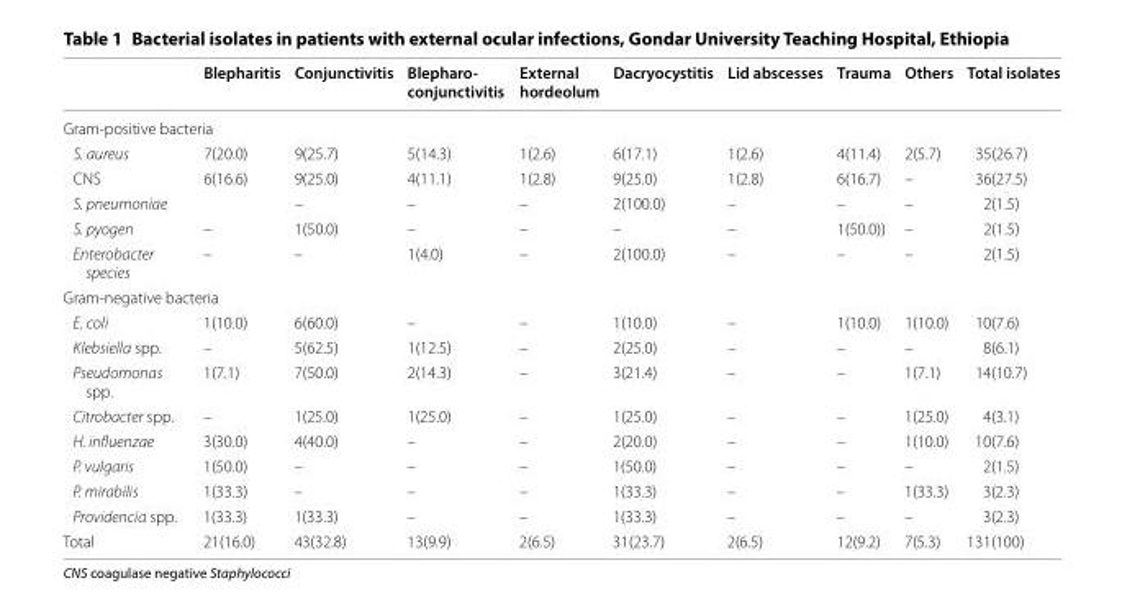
<table><thead><tr><td></td><td>Blepharitis</td><td>Conjunctivitis</td><td>Blepharo- conjunctivitis</td><td>External hordeolum</td><td>Dacryocystitis</td><td>Lid abscesses</td><td>Trauma</td><td>Others</td><td>Total isolates</td></tr></thead><tbody><tr><td colspan="10">Gram-positive bacteria</td></tr><tr><td>S. aureus</td><td>7(20.0)</td><td>9(25.7)</td><td>5(14.3)</td><td>1(2.6)</td><td>6(17.1)</td><td>1(2.6)</td><td>4(11.4)</td><td>2(5.7)</td><td>35(26.7)</td></tr><tr><td>CNS</td><td>6(16.6)</td><td>9(25.0)</td><td>4(11.1)</td><td>1(2.8)</td><td>9(25.0)</td><td>1(2.8)</td><td>6(16.7)</td><td>–</td><td>36(27.5)</td></tr><tr><td>S. pneumoniae</td><td></td><td>–</td><td>–</td><td>–</td><td>2(100.0)</td><td>–</td><td>–</td><td>–</td><td>2(1.5)</td></tr><tr><td>S. pyogen</td><td>–</td><td>1(50.0)</td><td>–</td><td>–</td><td>–</td><td>–</td><td>1(50.0))</td><td>–</td><td>2(1.5)</td></tr><tr><td>Enterobacter species</td><td>–</td><td>–</td><td>1(4.0)</td><td>–</td><td>2(100.0)</td><td>–</td><td>–</td><td>–</td><td>2(1.5)</td></tr><tr><td colspan="10">Gram-negative bacteria</td></tr><tr><td>E. coli</td><td>1(10.0)</td><td>6(60.0)</td><td>–</td><td>–</td><td>1(10.0)</td><td>–</td><td>1(10.0)</td><td>1(10.0)</td><td>10(7.6)</td></tr><tr><td>Klebsiella spp.</td><td>–</td><td>5(62.5)</td><td>1(12.5)</td><td>–</td><td>2(25.0)</td><td>–</td><td>–</td><td>–</td><td>8(6.1)</td></tr><tr><td>Pseudomonas spp.</td><td>1(7.1)</td><td>7(50.0)</td><td>2(14.3)</td><td>–</td><td>3(21.4)</td><td>–</td><td>–</td><td>1(7.1)</td><td>14(10.7)</td></tr><tr><td>Citrobacter spp.</td><td>–</td><td>1(25.0)</td><td>1(25.0)</td><td>–</td><td>1(25.0)</td><td>–</td><td>–</td><td>1(25.0)</td><td>4(3.1)</td></tr><tr><td>H. influenzae</td><td>3(30.0)</td><td>4(40.0)</td><td>–</td><td>–</td><td>2(20.0)</td><td>–</td><td>–</td><td>1(10.0)</td><td>10(7.6)</td></tr><tr><td>P. vulgaris</td><td>1(50.0)</td><td>–</td><td>–</td><td>–</td><td>1(50.0)</td><td>–</td><td>–</td><td>–</td><td>2(1.5)</td></tr><tr><td>P. mirabilis</td><td>1(33.3)</td><td>–</td><td>–</td><td>–</td><td>1(33.3)</td><td>–</td><td>–</td><td>1(33.3)</td><td>3(2.3)</td></tr><tr><td>Providencia spp.</td><td>1(33.3)</td><td>1(33.3)</td><td>–</td><td>–</td><td>1(33.3)</td><td>–</td><td>–</td><td>–</td><td>3(2.3)</td></tr><tr><td>Total</td><td>21(16.0)</td><td>43(32.8)</td><td>13(9.9)</td><td>2(6.5)</td><td>31(23.7)</td><td>2(6.5)</td><td>12(9.2)</td><td>7(5.3)</td><td>131(100)</td></tr></tbody></table>